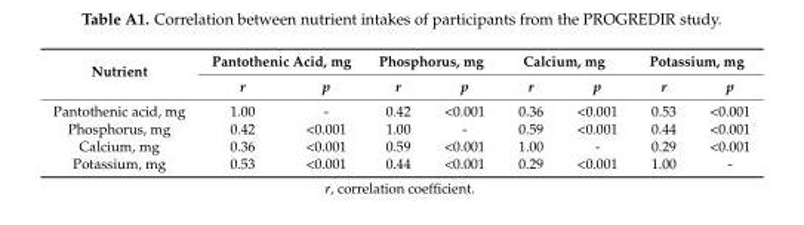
<table><thead><tr><td rowspan="2">Nutrient</td><td colspan="2">Pantothenic Acid, mg</td><td colspan="2">Phosphorus, mg</td><td colspan="2">Calcium, mg</td><td colspan="2">Potassium, mg</td></tr><tr><td>r</td><td>p</td><td>r</td><td>p</td><td>r</td><td>p</td><td>r</td><td>p</td></tr></thead><tbody><tr><td>Pantothenic acid, mg</td><td>1.00</td><td>-</td><td>0.42</td><td>&lt;0.001</td><td>0.36</td><td>&lt;0.001</td><td>0.53</td><td>&lt;0.001</td></tr><tr><td>Phosphorus, mg</td><td>0.42</td><td>&lt;0.001</td><td>1.00</td><td>-</td><td>0.59</td><td>&lt;0.001</td><td>0.44</td><td>&lt;0.001</td></tr><tr><td>Calcium, mg</td><td>0.36</td><td>&lt;0.001</td><td>0.59</td><td>&lt;0.001</td><td>1.00</td><td>-</td><td>0.29</td><td>&lt;0.001</td></tr><tr><td>Potassium, mg</td><td>0.53</td><td>&lt;0.001</td><td>0.44</td><td>&lt;0.001</td><td>0.29</td><td>&lt;0.001</td><td>1.00</td><td>-</td></tr></tbody></table>